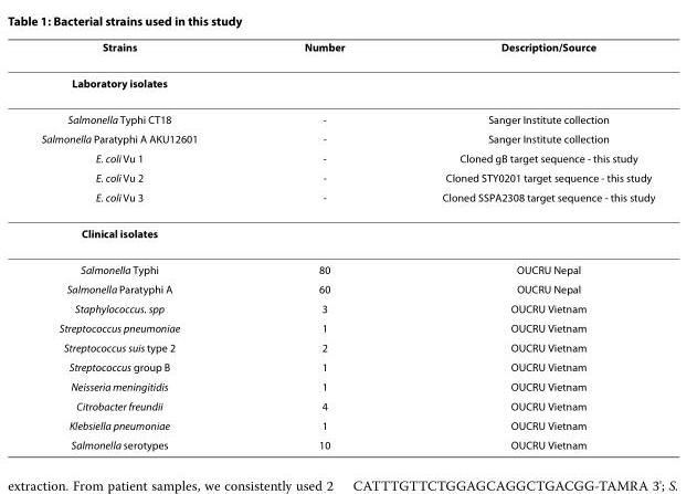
<table><thead><tr><td>Strains</td><td>Number</td><td>Description/Source</td></tr></thead><tbody><tr><td colspan="3">Laboratory isolates</td></tr><tr><td>Salmonella Typhi CT18</td><td>-</td><td>Sanger Institute collection</td></tr><tr><td>Salmonella Paratyphi A AKU12601</td><td>-</td><td>Sanger Institute collection</td></tr><tr><td>E. coli Vu 1</td><td>-</td><td>Cloned gB target sequence - this study</td></tr><tr><td>E. coli Vu 2</td><td>-</td><td>Cloned STY0201 target sequence - this study</td></tr><tr><td>E. coli Vu 3</td><td>-</td><td>Cloned SSPA2308 target sequence - this study</td></tr><tr><td colspan="3">Clinical isolates</td></tr><tr><td>Salmonella Typhi</td><td>80</td><td>OUCRU Nepal</td></tr><tr><td>Salmonella Paratyphi A</td><td>60</td><td>OUCRU Nepal</td></tr><tr><td>Staphylococcus. spp</td><td>3</td><td>OUCRU Vietnam</td></tr><tr><td>Streptococcus pneumoniae</td><td>1</td><td>OUCRU Vietnam</td></tr><tr><td>Streptococcus suis type 2</td><td>2</td><td>OUCRU Vietnam</td></tr><tr><td>Streptococcus group B</td><td>1</td><td>OUCRU Vietnam</td></tr><tr><td>Neisseria meningitidis</td><td>1</td><td>OUCRU Vietnam</td></tr><tr><td>Citrobacter freundii</td><td>4</td><td>OUCRU Vietnam</td></tr><tr><td>Klebsiella pneumoniae</td><td>1</td><td>OUCRU Vietnam</td></tr><tr><td>Salmonella serotypes</td><td>10</td><td>OUCRU Vietnam</td></tr></tbody></table>